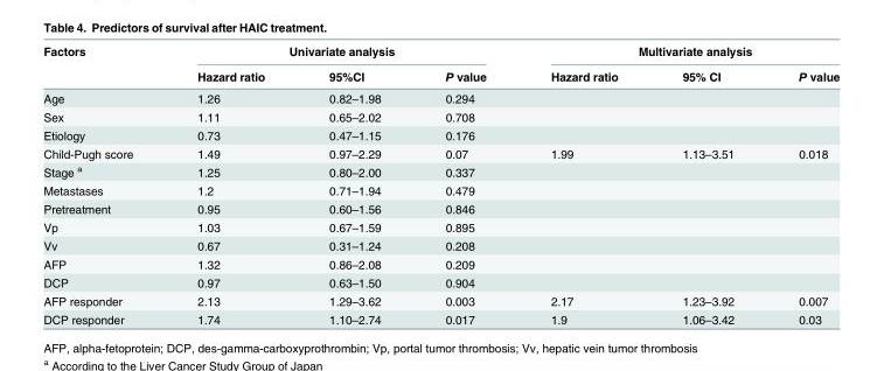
<table><thead><tr><td rowspan="2">Factors</td><td colspan="3">Univariate analysis</td><td colspan="3">Multivariate analysis</td></tr><tr><td>Hazard ratio</td><td>95%CI</td><td>P value</td><td>Hazard ratio</td><td>95% CI</td><td>P value</td></tr></thead><tbody><tr><td>Age</td><td>1.26</td><td>0.82–1.98</td><td>0.294</td><td></td><td></td><td></td></tr><tr><td>Sex</td><td>1.11</td><td>0.65–2.02</td><td>0.708</td><td></td><td></td><td></td></tr><tr><td>Etiology</td><td>0.73</td><td>0.47–1.15</td><td>0.176</td><td></td><td></td><td></td></tr><tr><td>Child-Pugh score</td><td>1.49</td><td>0.97–2.29</td><td>0.07</td><td>1.99</td><td>1.13–3.51</td><td>0.018</td></tr><tr><td>Stage <sup>a</sup></td><td>1.25</td><td>0.80–2.00</td><td>0.337</td><td></td><td></td><td></td></tr><tr><td>Metastases</td><td>1.2</td><td>0.71–1.94</td><td>0.479</td><td></td><td></td><td></td></tr><tr><td>Pretreatment</td><td>0.95</td><td>0.60–1.56</td><td>0.846</td><td></td><td></td><td></td></tr><tr><td>Vp</td><td>1.03</td><td>0.67–1.59</td><td>0.895</td><td></td><td></td><td></td></tr><tr><td>Vv</td><td>0.67</td><td>0.31–1.24</td><td>0.208</td><td></td><td></td><td></td></tr><tr><td>AFP</td><td>1.32</td><td>0.86–2.08</td><td>0.209</td><td></td><td></td><td></td></tr><tr><td>DCP</td><td>0.97</td><td>0.63–1.50</td><td>0.904</td><td></td><td></td><td></td></tr><tr><td>AFP responder</td><td>2.13</td><td>1.29–3.62</td><td>0.003</td><td>2.17</td><td>1.23–3.92</td><td>0.007</td></tr><tr><td>DCP responder</td><td>1.74</td><td>1.10–2.74</td><td>0.017</td><td>1.9</td><td>1.06–3.42</td><td>0.03</td></tr></tbody></table>